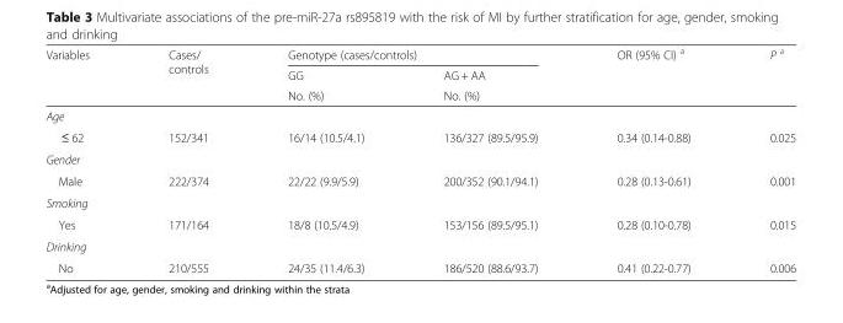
<table><thead><tr><td rowspan="3">Variables</td><td rowspan="3">Cases/ controls</td><td colspan="2">Genotype (cases/controls)</td><td rowspan="3">OR (95% CI) <sup>a</sup></td><td rowspan="3">P <sup>a</sup></td></tr><tr><td rowspan="2">GG No. (%)</td><td rowspan="2">AG + AA No. (%)</td></tr><tr></tr></thead><tbody><tr><td colspan="6">Age</td></tr><tr><td>≤ 62</td><td>152/341</td><td>16/14 (10.5/4.1)</td><td>136/327 (89.5/95.9)</td><td>0.34 (0.14-0.88)</td><td>0.025</td></tr><tr><td colspan="6">Gender</td></tr><tr><td>Male</td><td>222/374</td><td>22/22 (9.9/5.9)</td><td>200/352 (90.1/94.1)</td><td>0.28 (0.13-0.61)</td><td>0.001</td></tr><tr><td colspan="6">Smoking</td></tr><tr><td>Yes</td><td>171/164</td><td>18/8 (10.5/4.9)</td><td>153/156 (89.5/95.1)</td><td>0.28 (0.10-0.78)</td><td>0.015</td></tr><tr><td colspan="6">Drinking</td></tr><tr><td>No</td><td>210/555</td><td>24/35 (11.4/6.3)</td><td>186/520 (88.6/93.7)</td><td>0.41 (0.22-0.77)</td><td>0.006</td></tr></tbody></table>